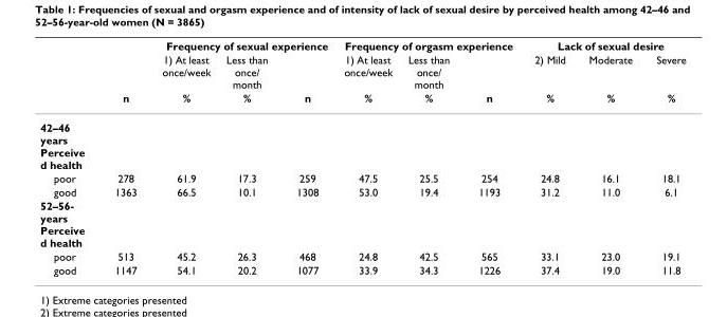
<table><thead><tr><td rowspan="3"></td><td rowspan="3">n</td><td colspan="3">Frequency of sexual experience</td><td colspan="3">Frequency of orgasm experience</td><td colspan="3">Lack of sexual desire</td></tr><tr><td rowspan="2">1) At least once/week %</td><td rowspan="2">Less than once/ month %</td><td rowspan="2">n</td><td rowspan="2">1) At least once/week %</td><td rowspan="2">Less than once/ month %</td><td rowspan="2">n</td><td rowspan="2">2) Mild %</td><td rowspan="2">Moderate %</td><td rowspan="2">Severe %</td></tr><tr></tr></thead><tbody><tr><td colspan="11">42–46 years Perceive d health</td></tr><tr><td>poor</td><td>278</td><td>61.9</td><td>17.3</td><td>259</td><td>47.5</td><td>25.5</td><td>254</td><td>24.8</td><td>16.1</td><td>18.1</td></tr><tr><td>good</td><td>1363</td><td>66.5</td><td>10.1</td><td>1308</td><td>53.0</td><td>19.4</td><td>1193</td><td>31.2</td><td>11.0</td><td>6.1</td></tr><tr><td colspan="11">52–56- years Perceive d health</td></tr><tr><td>poor</td><td>513</td><td>45.2</td><td>26.3</td><td>468</td><td>24.8</td><td>42.5</td><td>565</td><td>33.1</td><td>23.0</td><td>19.1</td></tr><tr><td>good</td><td>1147</td><td>54.1</td><td>20.2</td><td>1077</td><td>33.9</td><td>34.3</td><td>1226</td><td>37.4</td><td>19.0</td><td>11.8</td></tr></tbody></table>